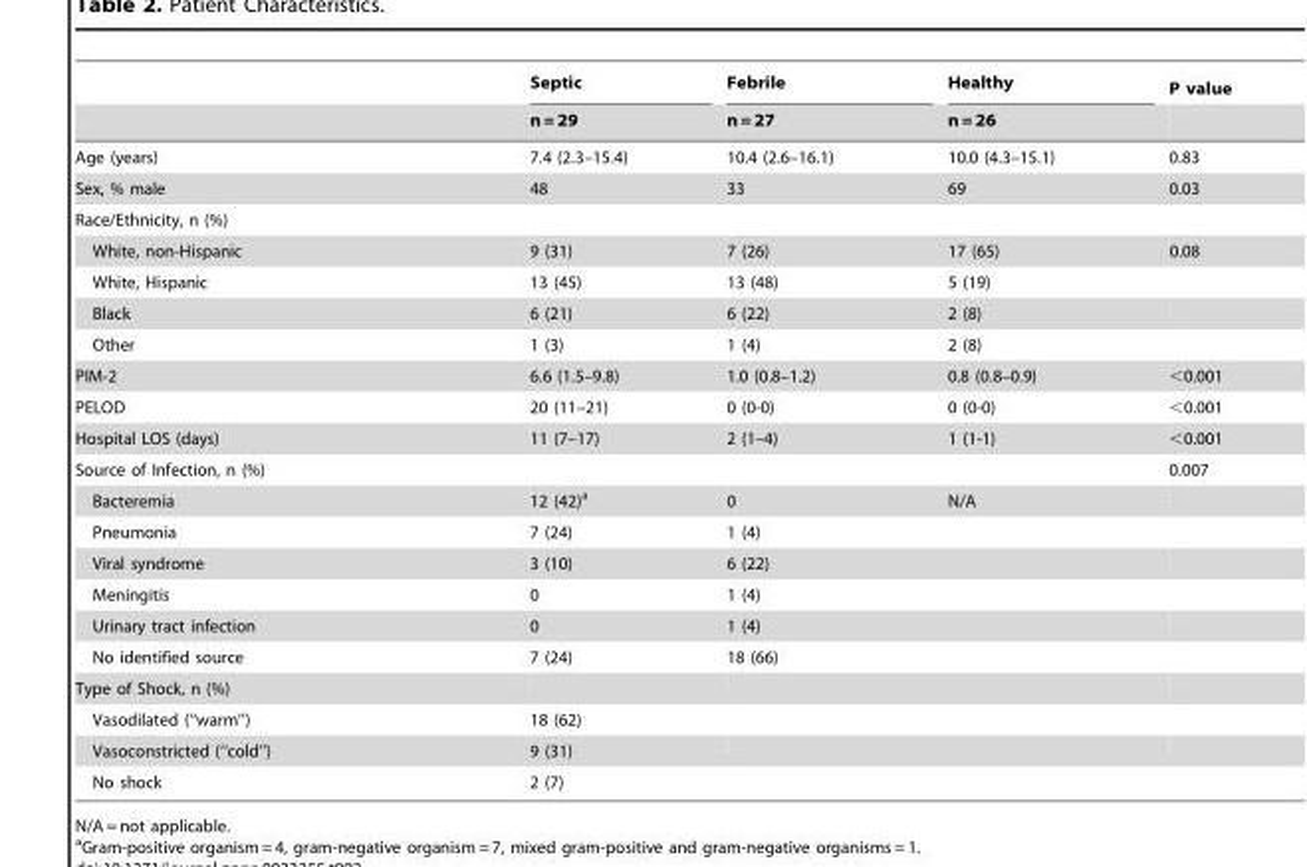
<table><thead><tr><td rowspan="2"></td><td rowspan="2">Septic n = 29</td><td rowspan="2">Febrile n = 27</td><td rowspan="2">Healthy n = 26</td><td rowspan="2">P value</td></tr><tr></tr></thead><tbody><tr><td>Age (years)</td><td>7.4 (2.3–15.4)</td><td>10.4 (2.6–16.1)</td><td>10.0 (4.3–15.1)</td><td>0.83</td></tr><tr><td>Sex, % male</td><td>48</td><td>33</td><td>69</td><td>0.03</td></tr><tr><td colspan="5">Race/Ethnicity, n (%)</td></tr><tr><td>White, non-Hispanic</td><td>9 (31)</td><td>7 (26)</td><td>17 (65)</td><td>0.08</td></tr><tr><td>White, Hispanic</td><td>13 (45)</td><td>13 (48)</td><td>5 (19)</td><td></td></tr><tr><td>Black</td><td>6 (21)</td><td>6 (22)</td><td>2 (8)</td><td></td></tr><tr><td>Other</td><td>1 (3)</td><td>1 (4)</td><td>2 (8)</td><td></td></tr><tr><td>PIM-2</td><td>6.6 (1.5–9.8)</td><td>1.0 (0.8–1.2)</td><td>0.8 (0.8–0.9)</td><td>&lt;0.001</td></tr><tr><td>PELOD</td><td>20 (11–21)</td><td>0 (0-0)</td><td>0 (0-0)</td><td>&lt;0.001</td></tr><tr><td>Hospital LOS (days)</td><td>11 (7–17)</td><td>2 (1–4)</td><td>1 (1-1)</td><td>&lt;0.001</td></tr><tr><td>Source of Infection, n (%)</td><td></td><td></td><td></td><td>0.007</td></tr><tr><td>Bacteremia</td><td>12 (42)<sup>a</sup></td><td>0</td><td>N/A</td><td></td></tr><tr><td>Pneumonia</td><td>7 (24)</td><td>1 (4)</td><td></td><td></td></tr><tr><td>Viral syndrome</td><td>3 (10)</td><td>6 (22)</td><td></td><td></td></tr><tr><td>Meningitis</td><td>0</td><td>1 (4)</td><td></td><td></td></tr><tr><td>Urinary tract infection</td><td>0</td><td>1 (4)</td><td></td><td></td></tr><tr><td>No identified source</td><td>7 (24)</td><td>18 (66)</td><td></td><td></td></tr><tr><td colspan="5">Type of Shock, n (%)</td></tr><tr><td>Vasodilated (‘‘warm’’)</td><td>18 (62)</td><td></td><td></td><td></td></tr><tr><td>Vasoconstricted (‘‘cold’’)</td><td>9 (31)</td><td></td><td></td><td></td></tr><tr><td>No shock</td><td>2 (7)</td><td></td><td></td><td></td></tr></tbody></table>